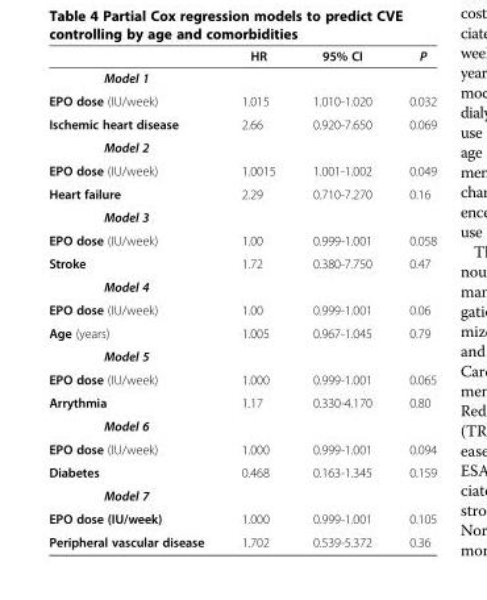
<table><thead><tr><td></td><td>HR</td><td>95% CI</td><td>P</td></tr></thead><tbody><tr><td colspan="4">Model 1</td></tr><tr><td>EPO dose (IU/week)</td><td>1.015</td><td>1.010-1.020</td><td>0.032</td></tr><tr><td>Ischemic heart disease</td><td>2.66</td><td>0.920-7.650</td><td>0.069</td></tr><tr><td colspan="4">Model 2</td></tr><tr><td>EPO dose (IU/week)</td><td>1.0015</td><td>1.001-1.002</td><td>0.049</td></tr><tr><td>Heart failure</td><td>2.29</td><td>0.710-7.270</td><td>0.16</td></tr><tr><td colspan="4">Model 3</td></tr><tr><td>EPO dose (IU/week)</td><td>1.00</td><td>0.999-1.001</td><td>0.058</td></tr><tr><td>Stroke</td><td>1.72</td><td>0.380-7.750</td><td>0.47</td></tr><tr><td colspan="4">Model 4</td></tr><tr><td>EPO dose (IU/week)</td><td>1.00</td><td>0.999-1.001</td><td>0.06</td></tr><tr><td>Age (years)</td><td>1.005</td><td>0.967-1.045</td><td>0.79</td></tr><tr><td colspan="4">Model 5</td></tr><tr><td>EPO dose (IU/week)</td><td>1.000</td><td>0.999-1.001</td><td>0.065</td></tr><tr><td>Arrythmia</td><td>1.17</td><td>0.330-4.170</td><td>0.80</td></tr><tr><td colspan="4">Model 6</td></tr><tr><td>EPO dose (IU/week)</td><td>1.000</td><td>0.999-1.001</td><td>0.094</td></tr><tr><td>Diabetes</td><td>0.468</td><td>0.163-1.345</td><td>0.159</td></tr><tr><td colspan="4">Model 7</td></tr><tr><td>EPO dose (IU/week)</td><td>1.000</td><td>0.999-1.001</td><td>0.105</td></tr><tr><td>Peripheral vascular disease</td><td>1.702</td><td>0.539-5.372</td><td>0.36</td></tr></tbody></table>